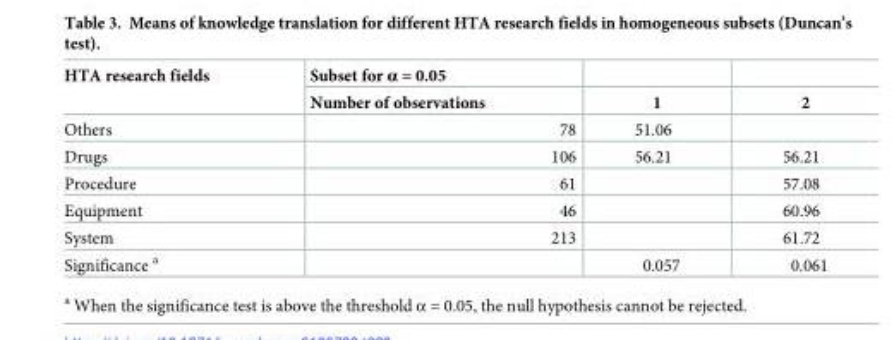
<table><thead><tr><td rowspan="2">HTA research fields</td><td rowspan="2">Subset for α = 0.05 Number of observations</td><td rowspan="2">1</td><td rowspan="2">2</td></tr><tr></tr></thead><tbody><tr><td>Others</td><td>78</td><td>51.06</td><td></td></tr><tr><td>Drugs</td><td>106</td><td>56.21</td><td>56.21</td></tr><tr><td>Procedure</td><td>61</td><td></td><td>57.08</td></tr><tr><td>Equipment</td><td>46</td><td></td><td>60.96</td></tr><tr><td>System</td><td>213</td><td></td><td>61.72</td></tr><tr><td>Significance <sup>a</sup></td><td></td><td>0.057</td><td>0.061</td></tr></tbody></table>